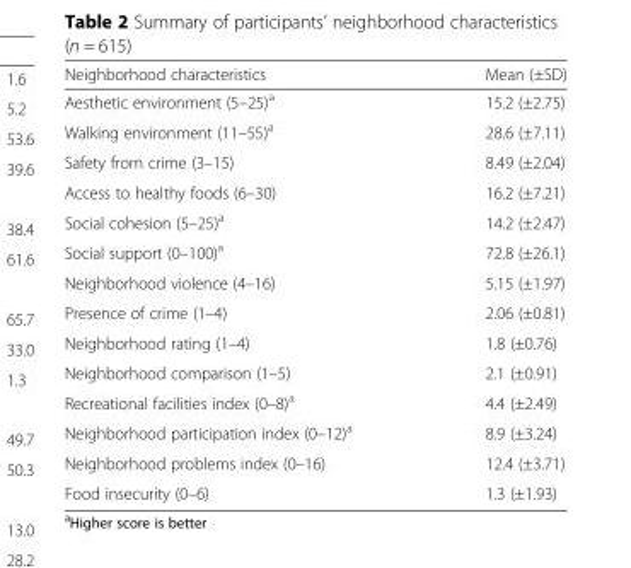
<table><thead><tr><td>Neighborhood characteristics</td><td>Mean (±SD)</td></tr></thead><tbody><tr><td>Aesthetic environment (5–25)<sup>a</sup></td><td>15.2 (±2.75)</td></tr><tr><td>Walking environment (11–55)<sup>a</sup></td><td>28.6 (±7.11)</td></tr><tr><td>Safety from crime (3–15)</td><td>8.49 (±2.04)</td></tr><tr><td>Access to healthy foods (6–30)</td><td>16.2 (±7.21)</td></tr><tr><td>Social cohesion (5–25)<sup>a</sup></td><td>14.2 (±2.47)</td></tr><tr><td>Social support (0–100)<sup>a</sup></td><td>72.8 (±26.1)</td></tr><tr><td>Neighborhood violence (4–16)</td><td>5.15 (±1.97)</td></tr><tr><td>Presence of crime (1–4)</td><td>2.06 (±0.81)</td></tr><tr><td>Neighborhood rating (1–4)</td><td>1.8 (±0.76)</td></tr><tr><td>Neighborhood comparison (1–5)</td><td>2.1 (±0.91)</td></tr><tr><td>Recreational facilities index (0–8)<sup>a</sup></td><td>4.4 (±2.49)</td></tr><tr><td>Neighborhood participation index (0–12)<sup>a</sup></td><td>8.9 (±3.24)</td></tr><tr><td>Neighborhood problems index (0–16)</td><td>12.4 (±3.71)</td></tr><tr><td>Food insecurity (0–6)</td><td>1.3 (±1.93)</td></tr></tbody></table>